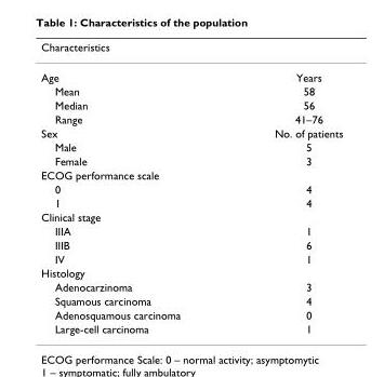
<table><thead><tr><td>Characteristics</td><td></td></tr></thead><tbody><tr><td>Age</td><td>Years</td></tr><tr><td>Mean</td><td>58</td></tr><tr><td>Median</td><td>56</td></tr><tr><td>Range</td><td>41–76</td></tr><tr><td>Sex</td><td>No. of patients</td></tr><tr><td>Male</td><td>5</td></tr><tr><td>Female</td><td>3</td></tr><tr><td colspan="2">ECOG performance scale</td></tr><tr><td>0</td><td>4</td></tr><tr><td>1</td><td>4</td></tr><tr><td colspan="2">Clinical stage</td></tr><tr><td>IIIA</td><td>1</td></tr><tr><td>IIIB</td><td>6</td></tr><tr><td>IV</td><td>1</td></tr><tr><td colspan="2">Histology</td></tr><tr><td>Adenocarzinoma</td><td>3</td></tr><tr><td>Squamous carcinoma</td><td>4</td></tr><tr><td>Adenosquamous carcinoma</td><td>0</td></tr><tr><td>Large-cell carcinoma</td><td>1</td></tr></tbody></table>